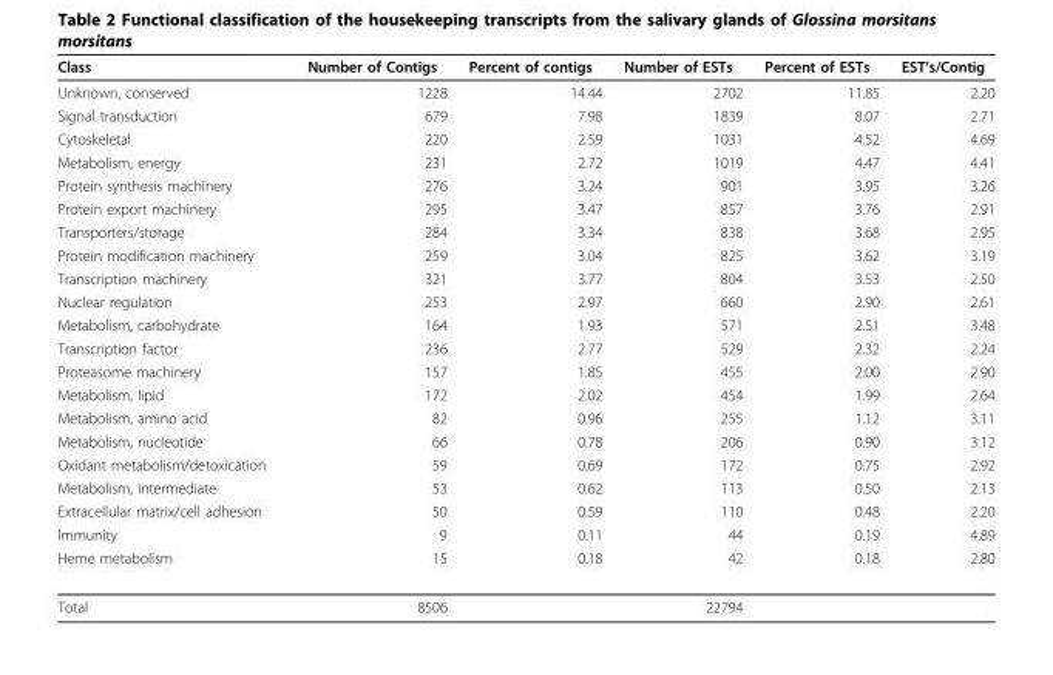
<table><thead><tr><td>Class</td><td>Number of Contigs</td><td>Percent of contigs</td><td>Number of ESTs</td><td>Percent of ESTs</td><td>EST’s/Contig</td></tr></thead><tbody><tr><td>Unknown, conserved</td><td>1228</td><td>14.44</td><td>2702</td><td>11.85</td><td>2.20</td></tr><tr><td>Signal transduction</td><td>679</td><td>7.98</td><td>1839</td><td>8.07</td><td>2.71</td></tr><tr><td>Cytoskeletal</td><td>220</td><td>2.59</td><td>1031</td><td>4.52</td><td>4.69</td></tr><tr><td>Metabolism, energy</td><td>231</td><td>2.72</td><td>1019</td><td>4.47</td><td>4.41</td></tr><tr><td>Protein synthesis machinery</td><td>276</td><td>3.24</td><td>901</td><td>3.95</td><td>3.26</td></tr><tr><td>Protein export machinery</td><td>295</td><td>3.47</td><td>857</td><td>3.76</td><td>2.91</td></tr><tr><td>Transporters/storage</td><td>284</td><td>3.34</td><td>838</td><td>3.68</td><td>2.95</td></tr><tr><td>Protein modification machinery</td><td>259</td><td>3.04</td><td>825</td><td>3.62</td><td>3.19</td></tr><tr><td>Transcription machinery</td><td>321</td><td>3.77</td><td>804</td><td>3.53</td><td>2.50</td></tr><tr><td>Nuclear regulation</td><td>253</td><td>2.97</td><td>660</td><td>2.90</td><td>2.61</td></tr><tr><td>Metabolism, carbohydrate</td><td>164</td><td>1.93</td><td>571</td><td>2.51</td><td>3.48</td></tr><tr><td>Transcription factor</td><td>236</td><td>2.77</td><td>529</td><td>2.32</td><td>2.24</td></tr><tr><td>Proteasome machinery</td><td>157</td><td>1.85</td><td>455</td><td>2.00</td><td>2.90</td></tr><tr><td>Metabolism, lipid</td><td>172</td><td>2.02</td><td>454</td><td>1.99</td><td>2.64</td></tr><tr><td>Metabolism, amino acid</td><td>82</td><td>0.96</td><td>255</td><td>1.12</td><td>3.11</td></tr><tr><td>Metabolism, nucleotide</td><td>66</td><td>0.78</td><td>206</td><td>0.90</td><td>3.12</td></tr><tr><td>Oxidant metabolism/detoxication</td><td>59</td><td>0.69</td><td>172</td><td>0.75</td><td>2.92</td></tr><tr><td>Metabolism, intermediate</td><td>53</td><td>0.62</td><td>113</td><td>0.50</td><td>2.13</td></tr><tr><td>Extracellular matrix/cell adhesion</td><td>50</td><td>0.59</td><td>110</td><td>0.48</td><td>2.20</td></tr><tr><td>Immunity</td><td>9</td><td>0.11</td><td>44</td><td>0.19</td><td>4.89</td></tr><tr><td>Heme metabolism</td><td>15</td><td>0.18</td><td>42</td><td>0.18</td><td>2.80</td></tr><tr><td>Total</td><td>8506</td><td></td><td>22794</td><td></td><td></td></tr></tbody></table>